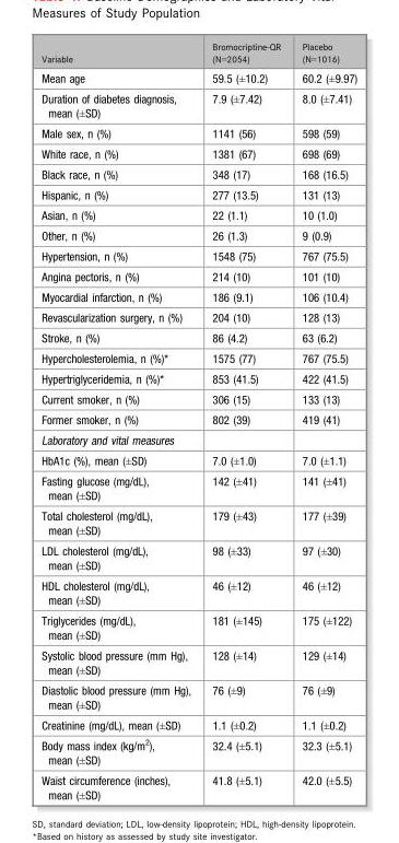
<table><thead><tr><td>Variable</td><td>Bromocriptine-QR (N=2054)</td><td>Placebo (N=1016)</td></tr></thead><tbody><tr><td>Mean age</td><td>59.5 (±10.2)</td><td>60.2 (±9.97)</td></tr><tr><td>Duration of diabetes diagnosis, mean (±SD)</td><td>7.9 (±7.42)</td><td>8.0 (±7.41)</td></tr><tr><td>Male sex, n (%)</td><td>1141 (56)</td><td>598 (59)</td></tr><tr><td>White race, n (%)</td><td>1381 (67)</td><td>698 (69)</td></tr><tr><td>Black race, n (%)</td><td>348 (17)</td><td>168 (16.5)</td></tr><tr><td>Hispanic, n (%)</td><td>277 (13.5)</td><td>131 (13)</td></tr><tr><td>Asian, n (%)</td><td>22 (1.1)</td><td>10 (1.0)</td></tr><tr><td>Other, n (%)</td><td>26 (1.3)</td><td>9 (0.9)</td></tr><tr><td>Hypertension, n (%)</td><td>1548 (75)</td><td>767 (75.5)</td></tr><tr><td>Angina pectoris, n (%)</td><td>214 (10)</td><td>101 (10)</td></tr><tr><td>Myocardial infarction, n (%)</td><td>186 (9.1)</td><td>106 (10.4)</td></tr><tr><td>Revascularization surgery, n (%)</td><td>204 (10)</td><td>128 (13)</td></tr><tr><td>Stroke, n (%)</td><td>86 (4.2)</td><td>63 (6.2)</td></tr><tr><td>Hypercholesterolemia, n (%)*</td><td>1575 (77)</td><td>767 (75.5)</td></tr><tr><td>Hypertriglyceridemia, n (%)*</td><td>853 (41.5)</td><td>422 (41.5)</td></tr><tr><td>Current smoker, n (%)</td><td>306 (15)</td><td>133 (13)</td></tr><tr><td>Former smoker, n (%)</td><td>802 (39)</td><td>419 (41)</td></tr><tr><td colspan="3">Laboratory and vital measures</td></tr><tr><td>HbA1c (%), mean (±SD)</td><td>7.0 (±1.0)</td><td>7.0 (±1.1)</td></tr><tr><td>Fasting glucose (mg/dL), mean (±SD)</td><td>142 (±41)</td><td>141 (±41)</td></tr><tr><td>Total cholesterol (mg/dL), mean (±SD)</td><td>179 (±43)</td><td>177 (±39)</td></tr><tr><td>LDL cholesterol (mg/dL), mean (±SD)</td><td>98 (±33)</td><td>97 (±30)</td></tr><tr><td>HDL cholesterol (mg/dL), mean (±SD)</td><td>46 (±12)</td><td>46 (±12)</td></tr><tr><td>Triglycerides (mg/dL), mean (±SD)</td><td>181 (±145)</td><td>175 (±122)</td></tr><tr><td>Systolic blood pressure (mm Hg), mean (±SD)</td><td>128 (±14)</td><td>129 (±14)</td></tr><tr><td>Diastolic blood pressure (mm Hg), mean (±SD)</td><td>76 (±9)</td><td>76 (±9)</td></tr><tr><td>Creatinine (mg/dL), mean (±SD)</td><td>1.1 (±0.2)</td><td>1.1 (±0.2)</td></tr><tr><td>Body mass index (kg/m<sup>2</sup>), mean (±SD)</td><td>32.4 (±5.1)</td><td>32.3 (±5.1)</td></tr><tr><td>Waist circumference (inches), mean (±SD)</td><td>41.8 (±5.1)</td><td>42.0 (±5.5)</td></tr></tbody></table>